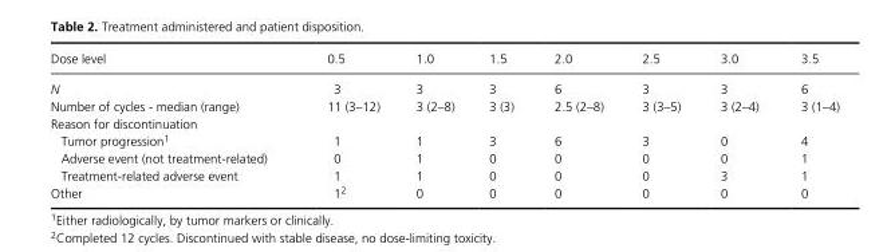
<table><thead><tr><td>Dose level</td><td>0.5</td><td>1.0</td><td>1.5</td><td>2.0</td><td>2.5</td><td>3.0</td><td>3.5</td></tr></thead><tbody><tr><td>N</td><td>3</td><td>3</td><td>3</td><td>6</td><td>3</td><td>3</td><td>6</td></tr><tr><td>Number of cycles - median (range)</td><td>11 (3–12)</td><td>3 (2–8)</td><td>3 (3)</td><td>2.5 (2–8)</td><td>3 (3–5)</td><td>3 (2–4)</td><td>3 (1–4)</td></tr><tr><td colspan="8">Reason for discontinuation</td></tr><tr><td>Tumor progression<sup>1</sup></td><td>1</td><td>1</td><td>3</td><td>6</td><td>3</td><td>0</td><td>4</td></tr><tr><td>Adverse event (not treatment- related)</td><td>0</td><td>1</td><td>0</td><td>0</td><td>0</td><td>0</td><td>1</td></tr><tr><td>Treatment- related adverse event</td><td>1</td><td>1</td><td>0</td><td>0</td><td>0</td><td>3</td><td>1</td></tr><tr><td>Other</td><td>1<sup>2</sup></td><td>0</td><td>0</td><td>0</td><td>0</td><td>0</td><td>0</td></tr></tbody></table>